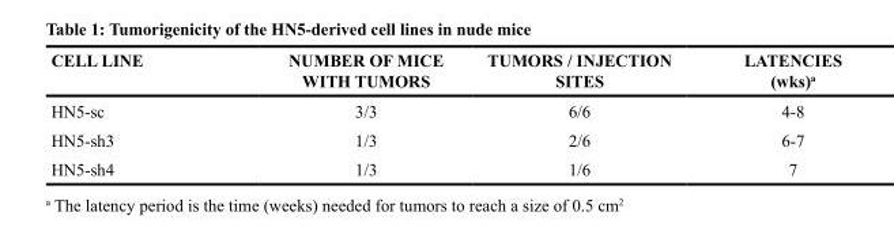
<table><thead><tr><td>CELL LINE</td><td>NUMBER OF MICE WITH TUMORS</td><td>TUMORS / INJECTION SITES</td><td>LATENCIES (wks)<sup>a</sup></td></tr></thead><tbody><tr><td>HN5-sc</td><td>3/3</td><td>6/6</td><td>4-8</td></tr><tr><td>HN5-sh3</td><td>1/3</td><td>2/6</td><td>6-7</td></tr><tr><td>HN5-sh4</td><td>1/3</td><td>1/6</td><td>7</td></tr></tbody></table>